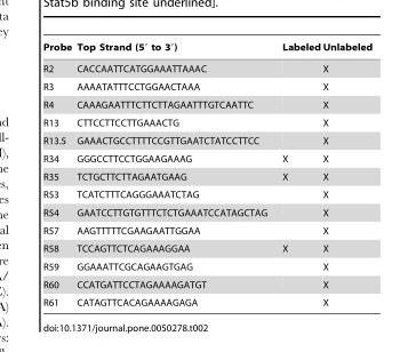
<table><thead><tr><td>Probe</td><td>Top Strand (5′ to 3′)</td><td>Labeled</td><td>Unlabeled</td></tr></thead><tbody><tr><td>R2</td><td>CACCAATTCATGGAAATTAAAC</td><td></td><td>X</td></tr><tr><td>R3</td><td>AAAATATTTCCTGGAACTAAA</td><td></td><td>X</td></tr><tr><td>R4</td><td>CAAAGAATTTCTTCTTAGAATTTGTCAATTC</td><td></td><td>X</td></tr><tr><td>R13</td><td>CTTCCTTCCTTGAAACTG</td><td></td><td>X</td></tr><tr><td>R13.5</td><td>GAAACTGCCTTTTCCGTTGAATCTATCCTTCC</td><td></td><td>X</td></tr><tr><td>R34</td><td>GGGCCTTCCTGGAAGAAAG</td><td>X</td><td>X</td></tr><tr><td>R35</td><td>TCTGCTTCTTAGAATGAAG</td><td>X</td><td>X</td></tr><tr><td>R53</td><td>TCATCTTTCAGGGAAATCTAG</td><td></td><td>X</td></tr><tr><td>R54</td><td>GAATCCTTGTGTTTCTCTGAAATCCATAGCTAG</td><td></td><td>X</td></tr><tr><td>R57</td><td>AAGTTTTTCGAAGAATTGGAA</td><td></td><td>X</td></tr><tr><td>R58</td><td>TCCAGTTCTCAGAAAGGAA</td><td>X</td><td>X</td></tr><tr><td>R59</td><td>GGAAATTCGCAGAAGTGAG</td><td></td><td>X</td></tr><tr><td>R60</td><td>CCATGATTCCTAGAAAAGATGT</td><td></td><td>X</td></tr><tr><td>R61</td><td>CATAGTTCACAGAAAAGAGA</td><td></td><td>X</td></tr></tbody></table>